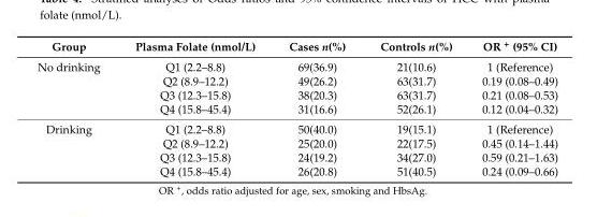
<table><thead><tr><td>Group</td><td>Plasma Folate (nmol/L)</td><td>Cases n(%)</td><td>Controls n(%)</td><td>OR <sup>+</sup> (95% CI)</td></tr></thead><tbody><tr><td rowspan="4">No drinking</td><td>Q1 (2.2–8.8)</td><td>69(36.9)</td><td>21(10.6)</td><td>1 (Reference)</td></tr><tr><td>Q2 (8.9–12.2)</td><td>49(26.2)</td><td>63(31.7)</td><td>0.19 (0.08–0.49)</td></tr><tr><td>Q3 (12.3–15.8)</td><td>38(20.3)</td><td>63(31.7)</td><td>0.21 (0.08–0.53)</td></tr><tr><td>Q4 (15.8–45.4)</td><td>31(16.6)</td><td>52(26.1)</td><td>0.12 (0.04–0.32)</td></tr><tr><td rowspan="4">Drinking</td><td>Q1 (2.2–8.8)</td><td>50(40.0)</td><td>19(15.1)</td><td>1 (Reference)</td></tr><tr><td>Q2 (8.9–12.2)</td><td>25(20.0)</td><td>22(17.5)</td><td>0.45 (0.14–1.44)</td></tr><tr><td>Q3 (12.3–15.8)</td><td>24(19.2)</td><td>34(27.0)</td><td>0.59 (0.21–1.63)</td></tr><tr><td>Q4 (15.8–45.4)</td><td>26(20.8)</td><td>51(40.5)</td><td>0.24 (0.09–0.66)</td></tr></tbody></table>